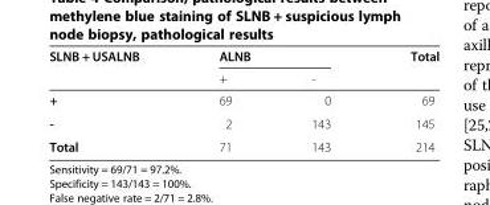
<table><thead><tr><td rowspan="2">SLNB + USALNB</td><td colspan="2">ALNB</td><td rowspan="2">Total</td></tr><tr><td>+</td><td>-</td></tr></thead><tbody><tr><td>+</td><td>69</td><td>0</td><td>69</td></tr><tr><td>-</td><td>2</td><td>143</td><td>145</td></tr><tr><td>Total</td><td>71</td><td>143</td><td>214</td></tr></tbody></table>